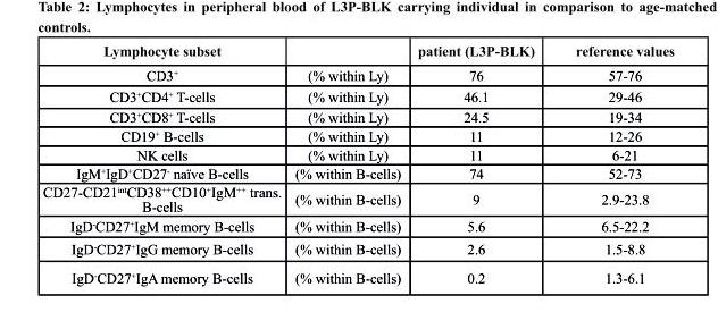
<table><thead><tr><td>lymphocyte subset</td><td></td><td>patient (L3P-BLK)</td><td>reference values</td></tr></thead><tbody><tr><td>CD3<sup>+</sup></td><td>(% within Ly)</td><td>76</td><td>57-76</td></tr><tr><td>CD3<sup>+</sup>CD4<sup>+</sup> T-cells</td><td>(% within Ly)</td><td>46.1</td><td>29-46</td></tr><tr><td>CD3<sup>+</sup>CD8<sup>+</sup> T-cells</td><td>(% within Ly)</td><td>24.5</td><td>19-34</td></tr><tr><td>CD19<sup>+</sup> B-cells</td><td>(% within Ly)</td><td>11</td><td>12-26</td></tr><tr><td>NK cells</td><td>(% within Ly)</td><td>11</td><td>6-21</td></tr><tr><td>IgM<sup>+</sup>IgD<sup>+</sup>CD27<sup>-</sup> naïve B-cells</td><td>(% within B-cells)</td><td>74</td><td>52-73</td></tr><tr><td>CD27-CD21<sup>int</sup>CD38<sup>++</sup>CD10<sup>+</sup>IgM<sup>++</sup> trans. B-cells</td><td>(% within B-cells)</td><td>9</td><td>2.9-23.8</td></tr><tr><td>IgD<sup>-</sup>CD27<sup>+</sup>IgM memory B-cells</td><td>(% within B-cells)</td><td>5.6</td><td>6.5-22.2</td></tr><tr><td>IgD<sup>-</sup>CD27<sup>+</sup>IgG memory B-cells</td><td>(% within B-cells)</td><td>2.6</td><td>1.5-8.8</td></tr><tr><td>IgD<sup>-</sup>CD27<sup>+</sup>IgA memory B-cells</td><td>(% within B-cells)</td><td>0.2</td><td>1.3-6.1</td></tr></tbody></table>